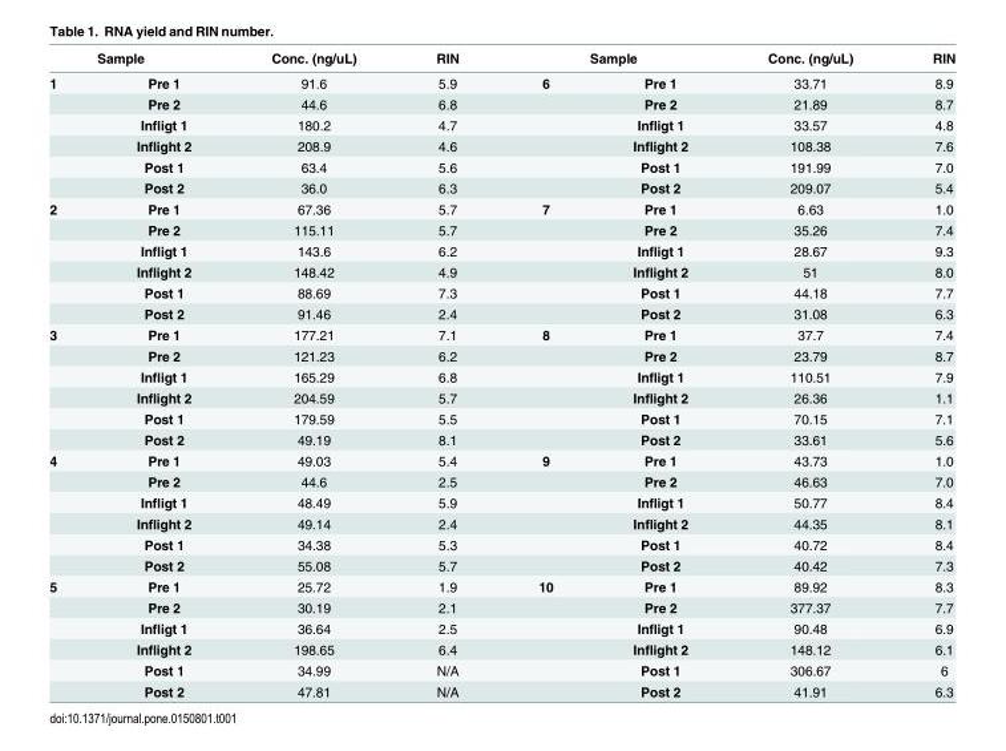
<table><thead><tr><td colspan="2">Sample</td><td rowspan="2">Conc. (ng/uL) 91.6</td><td rowspan="2">RIN 5.9</td><td colspan="2">Sample</td><td rowspan="2">Conc. (ng/uL) 33.71</td><td rowspan="2">RIN 8.9</td></tr><tr><td>1</td><td>Pre 1</td><td>6</td><td>Pre 1</td></tr></thead><tbody><tr><td></td><td>Pre 2</td><td>44.6</td><td>6.8</td><td></td><td>Pre 2</td><td>21.89</td><td>8.7</td></tr><tr><td></td><td>Infligt 1</td><td>180.2</td><td>4.7</td><td></td><td>Infligt 1</td><td>33.57</td><td>4.8</td></tr><tr><td></td><td>Inflight 2</td><td>208.9</td><td>4.6</td><td></td><td>Inflight 2</td><td>108.38</td><td>7.6</td></tr><tr><td></td><td>Post 1</td><td>63.4</td><td>5.6</td><td></td><td>Post 1</td><td>191.99</td><td>7.0</td></tr><tr><td></td><td>Post 2</td><td>36.0</td><td>6.3</td><td></td><td>Post 2</td><td>209.07</td><td>5.4</td></tr><tr><td rowspan="6">2</td><td>Pre 1</td><td>67.36</td><td>5.7</td><td>7</td><td>Pre 1</td><td>6.63</td><td>1.0</td></tr><tr><td>Pre 2</td><td>115.11</td><td>5.7</td><td></td><td>Pre 2</td><td>35.26</td><td>7.4</td></tr><tr><td>Infligt 1</td><td>143.6</td><td>6.2</td><td></td><td>Infligt 1</td><td>28.67</td><td>9.3</td></tr><tr><td>Inflight 2</td><td>148.42</td><td>4.9</td><td></td><td>Inflight 2</td><td>51</td><td>8.0</td></tr><tr><td>Post 1</td><td>88.69</td><td>7.3</td><td></td><td>Post 1</td><td>44.18</td><td>7.7</td></tr><tr><td>Post 2</td><td>91.46</td><td>2.4</td><td></td><td>Post 2</td><td>31.08</td><td>6.3</td></tr><tr><td rowspan="6">3</td><td>Pre 1</td><td>177.21</td><td>7.1</td><td>8</td><td>Pre 1</td><td>37.7</td><td>7.4</td></tr><tr><td>Pre 2</td><td>121.23</td><td>6.2</td><td></td><td>Pre 2</td><td>23.79</td><td>8.7</td></tr><tr><td>Infligt 1</td><td>165.29</td><td>6.8</td><td></td><td>Infligt 1</td><td>110.51</td><td>7.9</td></tr><tr><td>Inflight 2</td><td>204.59</td><td>5.7</td><td></td><td>Inflight 2</td><td>26.36</td><td>1.1</td></tr><tr><td>Post 1</td><td>179.59</td><td>5.5</td><td></td><td>Post 1</td><td>70.15</td><td>7.1</td></tr><tr><td>Post 2</td><td>49.19</td><td>8.1</td><td></td><td>Post 2</td><td>33.61</td><td>5.6</td></tr><tr><td rowspan="6">4</td><td>Pre 1</td><td>49.03</td><td>5.4</td><td>9</td><td>Pre 1</td><td>43.73</td><td>1.0</td></tr><tr><td>Pre 2</td><td>44.6</td><td>2.5</td><td></td><td>Pre 2</td><td>46.63</td><td>7.0</td></tr><tr><td>Infligt 1</td><td>48.49</td><td>5.9</td><td></td><td>Infligt 1</td><td>50.77</td><td>8.4</td></tr><tr><td>Inflight 2</td><td>49.14</td><td>2.4</td><td></td><td>Inflight 2</td><td>44.35</td><td>8.1</td></tr><tr><td>Post 1</td><td>34.38</td><td>5.3</td><td></td><td>Post 1</td><td>40.72</td><td>8.4</td></tr><tr><td>Post 2</td><td>55.08</td><td>5.7</td><td></td><td>Post 2</td><td>40.42</td><td>7.3</td></tr><tr><td rowspan="6">5</td><td>Pre 1</td><td>25.72</td><td>1.9</td><td>10</td><td>Pre 1</td><td>89.92</td><td>8.3</td></tr><tr><td>Pre 2</td><td>30.19</td><td>2.1</td><td></td><td>Pre 2</td><td>377.37</td><td>7.7</td></tr><tr><td>Infligt 1</td><td>36.64</td><td>2.5</td><td></td><td>Infligt 1</td><td>90.48</td><td>6.9</td></tr><tr><td>Inflight 2</td><td>198.65</td><td>6.4</td><td></td><td>Inflight 2</td><td>148.12</td><td>6.1</td></tr><tr><td>Post 1</td><td>34.99</td><td>N/A</td><td></td><td>Post 1</td><td>306.67</td><td>6</td></tr><tr><td>Post 2</td><td>47.81</td><td>N/A</td><td></td><td>Post 2</td><td>41.91</td><td>6.3</td></tr></tbody></table>